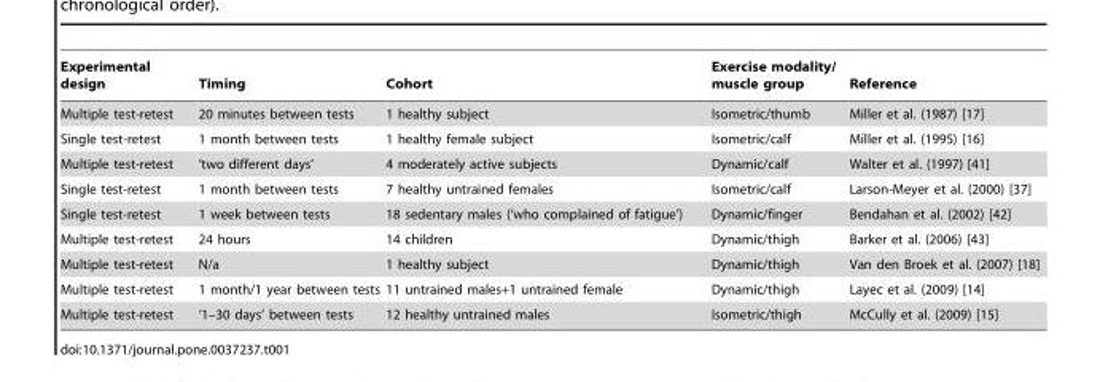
<table><thead><tr><td>Experimental design</td><td>Timing</td><td>Cohort</td><td>Exercise modality/ muscle group</td><td>Reference</td></tr></thead><tbody><tr><td>Multiple test-retest</td><td>20 minutes between tests</td><td>1 healthy subject</td><td>Isometric/thumb</td><td>Miller et al. (1987) [17]</td></tr><tr><td>Single test-retest</td><td>1 month between tests</td><td>1 healthy female subject</td><td>Isometric/calf</td><td>Miller et al. (1995) [16]</td></tr><tr><td>Multiple test-retest</td><td>‘two different days’</td><td>4 moderately active subjects</td><td>Dynamic/calf</td><td>Walter et al. (1997) [41]</td></tr><tr><td>Single test-retest</td><td>1 month between tests</td><td>7 healthy untrained females</td><td>Isometric/calf</td><td>Larson-Meyer et al. (2000) [37]</td></tr><tr><td>Single test-retest</td><td>1 week between tests</td><td>18 sedentary males (‘who complained of fatigue’)</td><td>Dynamic/finger</td><td>Bendahan et al. (2002) [42]</td></tr><tr><td>Multiple test-retest</td><td>24 hours</td><td>14 children</td><td>Dynamic/thigh</td><td>Barker et al. (2006) [43]</td></tr><tr><td>Multiple test-retest</td><td>N/a</td><td>1 healthy subject</td><td>Dynamic/thigh</td><td>Van den Broek et al. (2007) [18]</td></tr><tr><td>Multiple test-retest</td><td>1 month/1 year between tests</td><td>11 untrained males+1 untrained female</td><td>Dynamic/thigh</td><td>Layec et al. (2009) [14]</td></tr><tr><td>Multiple test-retest</td><td>‘1–30 days’ between tests</td><td>12 healthy untrained males</td><td>Isometric/thigh</td><td>McCully et al. (2009) [15]</td></tr></tbody></table>